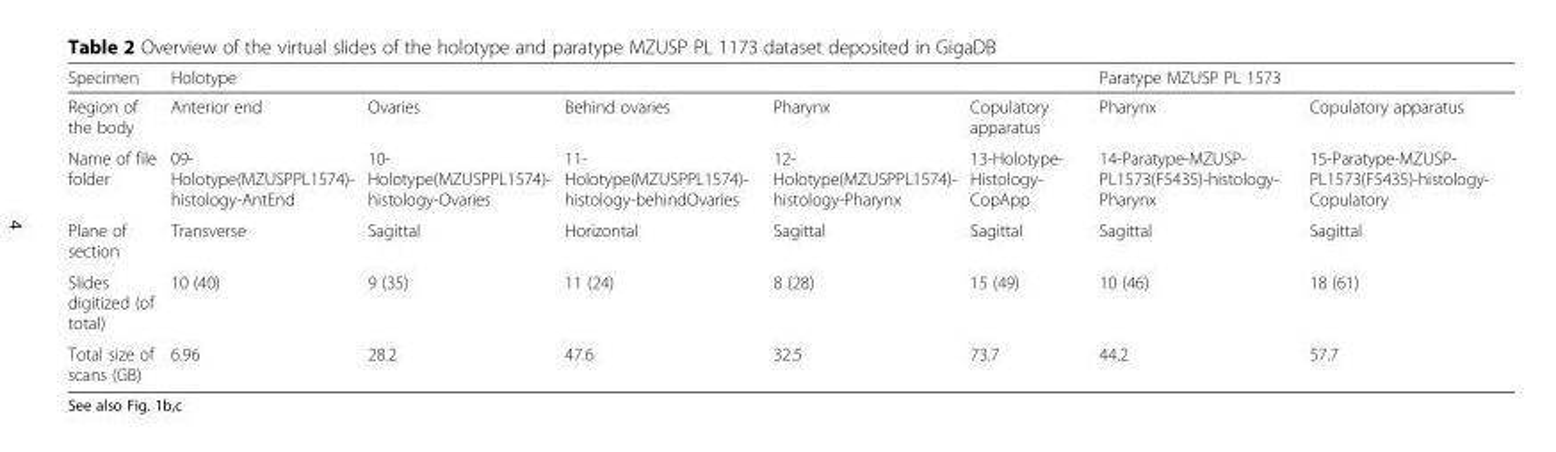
<table><thead><tr><td rowspan="2">Specimen Region of the body</td><td colspan="5">Holotype</td><td colspan="2">Paratype MZUSP PL 1573</td></tr><tr><td>Anterior end</td><td>Ovaries</td><td>Behind ovaries</td><td>Pharynx</td><td>Copulatory apparatus</td><td>Pharynx</td><td>Copulatory apparatus</td></tr></thead><tbody><tr><td>Name of file folder</td><td>09- Holotype(MZUSPPL1574)- histology-AntEnd</td><td>10- Holotype(MZUSPPL1574)- histology-Ovaries</td><td>11- Holotype(MZUSPPL1574)- histology-behindOvaries</td><td>12- Holotype(MZUSPPL1574)- histology-Pharynx</td><td>13-Holotype- Histology- CopApp</td><td>14-Paratype-MZUSP- PL1573(F5435)-histology- Pharynx</td><td>15-Paratype-MZUSP- PL1573(F5435)-histology- Copulatory</td></tr><tr><td>Plane of section</td><td>Transverse</td><td>Sagittal</td><td>Horizontal</td><td>Sagittal</td><td>Sagittal</td><td>Sagittal</td><td>Sagittal</td></tr><tr><td>Slides digitized (of total)</td><td>10 (40)</td><td>9 (35)</td><td>11 (24)</td><td>8 (28)</td><td>15 (49)</td><td>10 (46)</td><td>18 (61)</td></tr><tr><td>Total size of scans (GB)</td><td>6.96</td><td>28.2</td><td>47.6</td><td>32.5</td><td>73.7</td><td>44.2</td><td>57.7</td></tr></tbody></table>